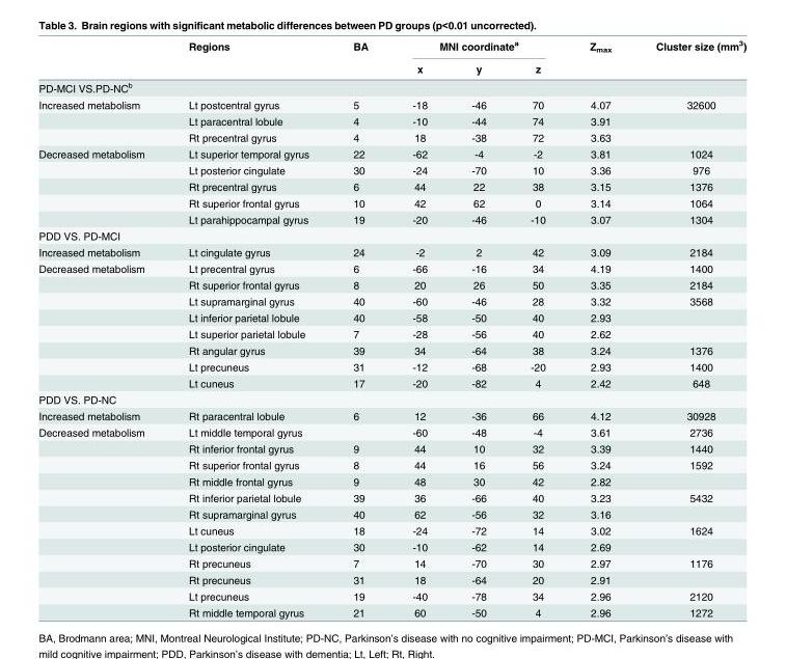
<table><thead><tr><td rowspan="2"></td><td rowspan="2">Regions</td><td rowspan="2">BA</td><td colspan="3">MNI coordinate<sup>a</sup></td><td rowspan="2">Z<sub>max</sub></td><td rowspan="2">Cluster size (mm<sup>3</sup>)</td></tr><tr><td>x</td><td>y</td><td>z</td></tr></thead><tbody><tr><td colspan="8">PD-MCI VS.PD-NC<sup>b</sup></td></tr><tr><td rowspan="3">Increased metabolism</td><td>Lt postcentral gyrus</td><td>5</td><td>-18</td><td>-46</td><td>70</td><td>4.07</td><td>32600</td></tr><tr><td>Lt paracentral lobule</td><td>4</td><td>-10</td><td>-44</td><td>74</td><td>3.91</td><td></td></tr><tr><td>Rt precentral gyrus</td><td>4</td><td>18</td><td>-38</td><td>72</td><td>3.63</td><td></td></tr><tr><td rowspan="5">Decreased metabolism</td><td>Lt superior temporal gyrus</td><td>22</td><td>-62</td><td>-4</td><td>-2</td><td>3.81</td><td>1024</td></tr><tr><td>Lt posterior cingulate</td><td>30</td><td>-24</td><td>-70</td><td>10</td><td>3.36</td><td>976</td></tr><tr><td>Rt precentral gyrus</td><td>6</td><td>44</td><td>22</td><td>38</td><td>3.15</td><td>1376</td></tr><tr><td>Rt superior frontal gyrus</td><td>10</td><td>42</td><td>62</td><td>0</td><td>3.14</td><td>1064</td></tr><tr><td>Lt parahippocampal gyrus</td><td>19</td><td>-20</td><td>-46</td><td>-10</td><td>3.07</td><td>1304</td></tr><tr><td colspan="8">PDD VS. PD-MCI</td></tr><tr><td>Increased metabolism</td><td>Lt cingulate gyrus</td><td>24</td><td>-2</td><td>2</td><td>42</td><td>3.09</td><td>2184</td></tr><tr><td rowspan="8">Decreased metabolism</td><td>Lt precentral gyrus</td><td>6</td><td>-66</td><td>-16</td><td>34</td><td>4.19</td><td>1400</td></tr><tr><td>Rt superior frontal gyrus</td><td>8</td><td>20</td><td>26</td><td>50</td><td>3.35</td><td>2184</td></tr><tr><td>Lt supramarginal gyrus</td><td>40</td><td>-60</td><td>-46</td><td>28</td><td>3.32</td><td>3568</td></tr><tr><td>Lt inferior parietal lobule</td><td>40</td><td>-58</td><td>-50</td><td>40</td><td>2.93</td><td></td></tr><tr><td>Lt superior parietal lobule</td><td>7</td><td>-28</td><td>-56</td><td>40</td><td>2.62</td><td></td></tr><tr><td>Rt angular gyrus</td><td>39</td><td>34</td><td>-64</td><td>38</td><td>3.24</td><td>1376</td></tr><tr><td>Lt precuneus</td><td>31</td><td>-12</td><td>-68</td><td>-20</td><td>2.93</td><td>1400</td></tr><tr><td>Lt cuneus</td><td>17</td><td>-20</td><td>-82</td><td>4</td><td>2.42</td><td>648</td></tr><tr><td colspan="8">PDD VS. PD-NC</td></tr><tr><td>Increased metabolism</td><td>Rt paracentral lobule</td><td>6</td><td>12</td><td>-36</td><td>66</td><td>4.12</td><td>30928</td></tr><tr><td rowspan="12">Decreased metabolism</td><td>Lt middle temporal gyrus</td><td></td><td>-60</td><td>-48</td><td>-4</td><td>3.61</td><td>2736</td></tr><tr><td>Rt inferior frontal gyrus</td><td>9</td><td>44</td><td>10</td><td>32</td><td>3.39</td><td>1440</td></tr><tr><td>Rt superior frontal gyrus</td><td>8</td><td>44</td><td>16</td><td>56</td><td>3.24</td><td>1592</td></tr><tr><td>Rt middle frontal gyrus</td><td>9</td><td>48</td><td>30</td><td>42</td><td>2.82</td><td></td></tr><tr><td>Rt inferior parietal lobule</td><td>39</td><td>36</td><td>-66</td><td>40</td><td>3.23</td><td>5432</td></tr><tr><td>Rt supramarginal gyrus</td><td>40</td><td>62</td><td>-56</td><td>32</td><td>3.16</td><td></td></tr><tr><td>Lt cuneus</td><td>18</td><td>-24</td><td>-72</td><td>14</td><td>3.02</td><td>1624</td></tr><tr><td>Lt posterior cingulate</td><td>30</td><td>-10</td><td>-62</td><td>14</td><td>2.69</td><td></td></tr><tr><td>Rt precuneus</td><td>7</td><td>14</td><td>-70</td><td>30</td><td>2.97</td><td>1176</td></tr><tr><td>Rt precuneus</td><td>31</td><td>18</td><td>-64</td><td>20</td><td>2.91</td><td></td></tr><tr><td>Lt precuneus</td><td>19</td><td>-40</td><td>-78</td><td>34</td><td>2.96</td><td>2120</td></tr><tr><td>Rt middle temporal gyrus</td><td>21</td><td>60</td><td>-50</td><td>4</td><td>2.96</td><td>1272</td></tr></tbody></table>